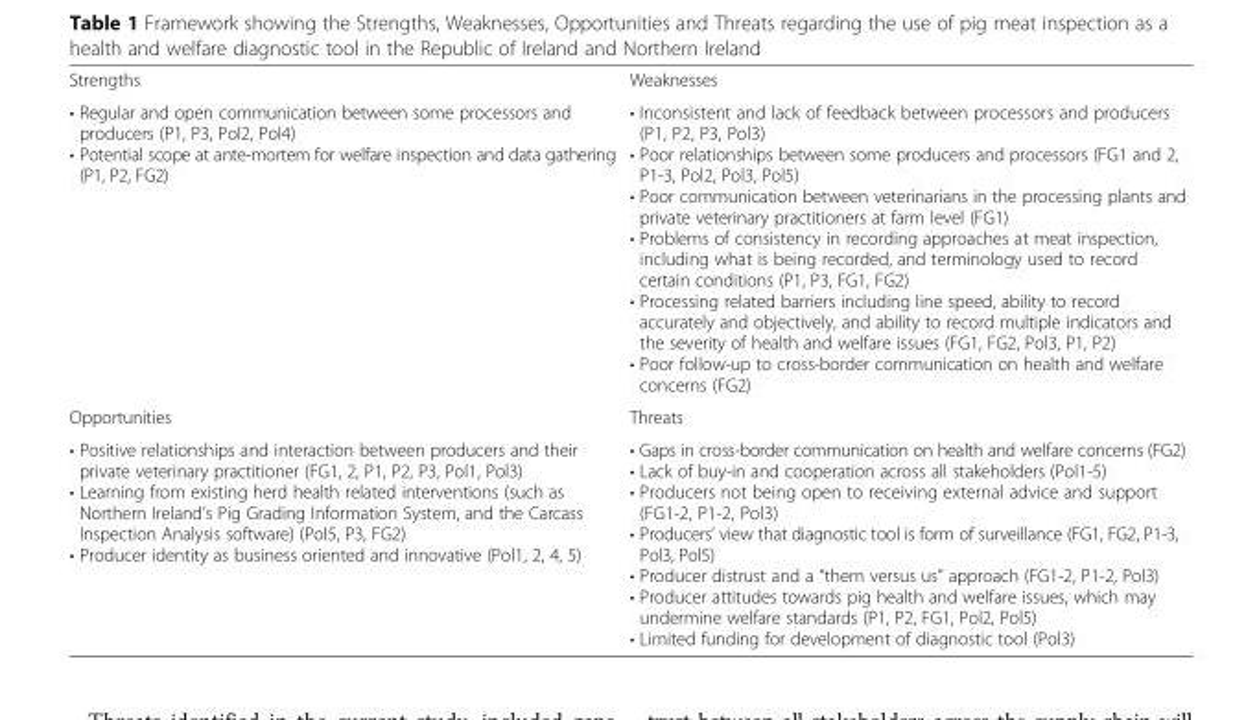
<table><tbody><tr><td>Strengths</td><td>Weaknesses</td></tr><tr><td>• Regular and open communication between some processors and producers (P1, P3, Pol2, Pol4) • Potential scope at ante-mortem for welfare inspection and data gathering (P1, P2, FG2)</td><td>• Inconsistent and lack of feedback between processors and producers (P1, P2, P3, Pol3) • Poor relationships between some producers and processors (FG1 and 2, P1-3, Pol2, Pol3, Pol5) • Poor communication between veterinarians in the processing plants and private veterinary practitioners at farm level (FG1) • Problems of consistency in recording approaches at meat inspection, including what is being recorded, and terminology used to record certain conditions (P1, P3, FG1, FG2) • Processing related barriers including line speed, ability to record accurately and objectively, and ability to record multiple indicators and the severity of health and welfare issues (FG1, FG2, Pol3, P1, P2) • Poor follow-up to cross-border communication on health and welfare concerns (FG2)</td></tr><tr><td>Opportunities</td><td>Threats</td></tr><tr><td>• Positive relationships and interaction between producers and their private veterinary practitioner (FG1, 2, P1, P2, P3, Pol1, Pol3) • Learning from existing herd health related interventions (such as Northern Ireland’s Pig Grading Information System, and the Carcass Inspection Analysis software) (Pol5, P3, FG2) • Producer identity as business oriented and innovative (Pol1, 2, 4, 5)</td><td>• Gaps in cross-border communication on health and welfare concerns (FG2) • Lack of buy-in and cooperation across all stakeholders (Pol1-5) • Producers not being open to receiving external advice and support (FG1-2, P1-2, Pol3) • Producers’ view that diagnostic tool is form of surveillance (FG1, FG2, P1-3, Pol3, Pol5) • Producer distrust and a “them versus us” approach (FG1-2, P1-2, Pol3) • Producer attitudes towards pig health and welfare issues, which may undermine welfare standards (P1, P2, FG1, Pol2, Pol5) • Limited funding for development of diagnostic tool (Pol3)</td></tr></tbody></table>